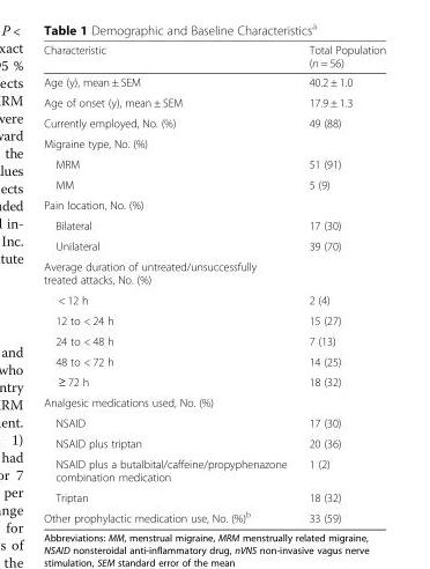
<table><thead><tr><td>Characteristic</td><td>Total Population (n = 56)</td></tr></thead><tbody><tr><td>Age (y), mean ± SEM</td><td>40.2 ± 1.0</td></tr><tr><td>Age of onset (y), mean ± SEM</td><td>17.9 ± 1.3</td></tr><tr><td>Currently employed, No. (%)</td><td>49 (88)</td></tr><tr><td colspan="2">Migraine type, No. (%)</td></tr><tr><td>MRM</td><td>51 (91)</td></tr><tr><td>MM</td><td>5 (9)</td></tr><tr><td colspan="2">Pain location, No. (%)</td></tr><tr><td>Bilateral</td><td>17 (30)</td></tr><tr><td>Unilateral</td><td>39 (70)</td></tr><tr><td colspan="2">Average duration of untreated/unsuccessfully treated attacks, No. (%)</td></tr><tr><td>&lt; 12 h</td><td>2 (4)</td></tr><tr><td>12 to &lt; 24 h</td><td>15 (27)</td></tr><tr><td>24 to &lt; 48 h</td><td>7 (13)</td></tr><tr><td>48 to &lt; 72 h</td><td>14 (25)</td></tr><tr><td>≥ 72 h</td><td>18 (32)</td></tr><tr><td colspan="2">Analgesic medications used, No. (%)</td></tr><tr><td>NSAID</td><td>17 (30)</td></tr><tr><td>NSAID plus triptan</td><td>20 (36)</td></tr><tr><td>NSAID plus a butalbital/caffeine/propyphenazone combination medication</td><td>1 (2)</td></tr><tr><td>Triptan</td><td>18 (32)</td></tr><tr><td>Other prophylactic medication use, No. (%)<sup>b</sup></td><td>33 (59)</td></tr></tbody></table>